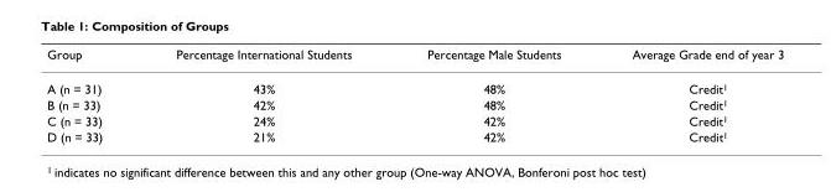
<table><thead><tr><td>Group</td><td>Percentage International Students</td><td>Percentage Male Students</td><td>Average Grade end of year 3</td></tr></thead><tbody><tr><td>A (n = 31)</td><td>43%</td><td>48%</td><td>Credit<sup>1</sup></td></tr><tr><td>B (n = 33)</td><td>42%</td><td>48%</td><td>Credit<sup>1</sup></td></tr><tr><td>C (n = 33)</td><td>24%</td><td>42%</td><td>Credit<sup>1</sup></td></tr><tr><td>D (n = 33)</td><td>21%</td><td>42%</td><td>Credit<sup>1</sup></td></tr></tbody></table>